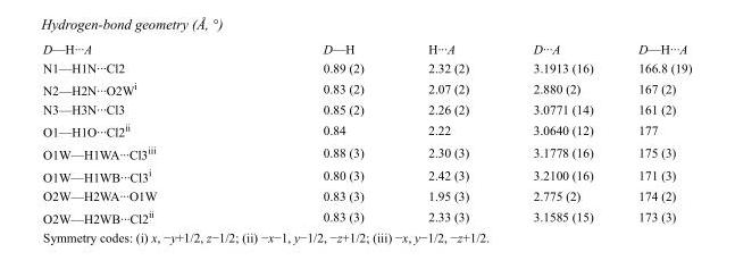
<table><tbody><tr><td>D—H···A</td><td>D—H</td><td>H···A</td><td>D···A</td><td>D—H···A</td></tr><tr><td>N1—H1N···Cl2</td><td>0.89 (2)</td><td>2.32 (2)</td><td>3.1913 (16)</td><td>166.8 (19)</td></tr><tr><td>N2—H2N···O2W<sup>i</sup></td><td>0.83 (2)</td><td>2.07 (2)</td><td>2.880 (2)</td><td>167 (2)</td></tr><tr><td>N3—H3N···Cl3</td><td>0.85 (2)</td><td>2.26 (2)</td><td>3.0771 (14)</td><td>161 (2)</td></tr><tr><td>O1—H1O···Cl2<sup>ii</sup></td><td>0.84</td><td>2.22</td><td>3.0640 (12)</td><td>177</td></tr><tr><td>O1W—H1WA···Cl3<sup>iii</sup></td><td>0.88 (3)</td><td>2.30 (3)</td><td>3.1778 (16)</td><td>175 (3)</td></tr><tr><td>O1W—H1WB···Cl3<sup>i</sup></td><td>0.80 (3)</td><td>2.42 (3)</td><td>3.2100 (16)</td><td>171 (3)</td></tr><tr><td>O2W—H2WA···O1W</td><td>0.83 (3)</td><td>1.95 (3)</td><td>2.775 (2)</td><td>174 (2)</td></tr><tr><td>O2W—H2WB···Cl2<sup>ii</sup></td><td>0.83 (3)</td><td>2.33 (3)</td><td>3.1585 (15)</td><td>173 (3)</td></tr></tbody></table>